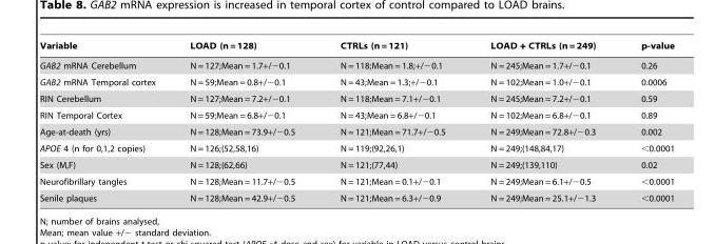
<table><thead><tr><td>Variable</td><td>LOAD (n = 128)</td><td>CTRLs (n = 121)</td><td>LOAD + CTRLs (n = 249)</td><td>p-value</td></tr></thead><tbody><tr><td>GAB2 mRNA Cerebellum</td><td>N = 127;Mean = 1.7+/−0.1</td><td>N = 118;Mean = 1.8;+/−0.1</td><td>N = 245;Mean = 1.7+/−0.1</td><td>0.26</td></tr><tr><td>GAB2 mRNA Temporal cortex</td><td>N = 59;Mean = 0.8+/−0.1</td><td>N = 43;Mean = 1.3;+/−0.1</td><td>N = 102;Mean = 1.0+/−0.1</td><td>0.0006</td></tr><tr><td>RIN Cerebellum</td><td>N = 127;Mean = 7.2+/−0.1</td><td>N = 118;Mean = 7.1+/−0.1</td><td>N = 245;Mean = 7.2+/−0.1</td><td>0.59</td></tr><tr><td>RIN Temporal Cortex</td><td>N = 59;Mean = 6.8+/−0.1</td><td>N = 43;Mean = 6.8+/−0.1</td><td>N = 102;Mean = 6.8+/−0.1</td><td>0.89</td></tr><tr><td>Age-at-death (yrs)</td><td>N = 128;Mean = 73.9+/−0.5</td><td>N = 121;Mean = 71.7+/−0.5</td><td>N = 249;Mean = 72.8+/−0.3</td><td>0.002</td></tr><tr><td>APOE 4 (n for 0,1,2 copies)</td><td>N = 126;(52,58,16)</td><td>N = 119;(92,26,1)</td><td>N = 249;(148,84,17)</td><td>&lt;0.0001</td></tr><tr><td>Sex (M,F)</td><td>N = 128;(62,66)</td><td>N = 121;(77,44)</td><td>N = 249;(139,110)</td><td>0.02</td></tr><tr><td>Neurofibrillary tangles</td><td>N = 128;Mean = 11.7+/−0.5</td><td>N = 121;Mean = 0.1+/−0.1</td><td>N = 249;Mean = 6.1+/−0.5</td><td>&lt;0.0001</td></tr><tr><td>Senile plaques</td><td>N = 128;Mean = 42.9+/−0.5</td><td>N = 121;Mean = 6.3+/−0.9</td><td>N = 249;Mean = 25.1+/−1.3</td><td>&lt;0.0001</td></tr></tbody></table>